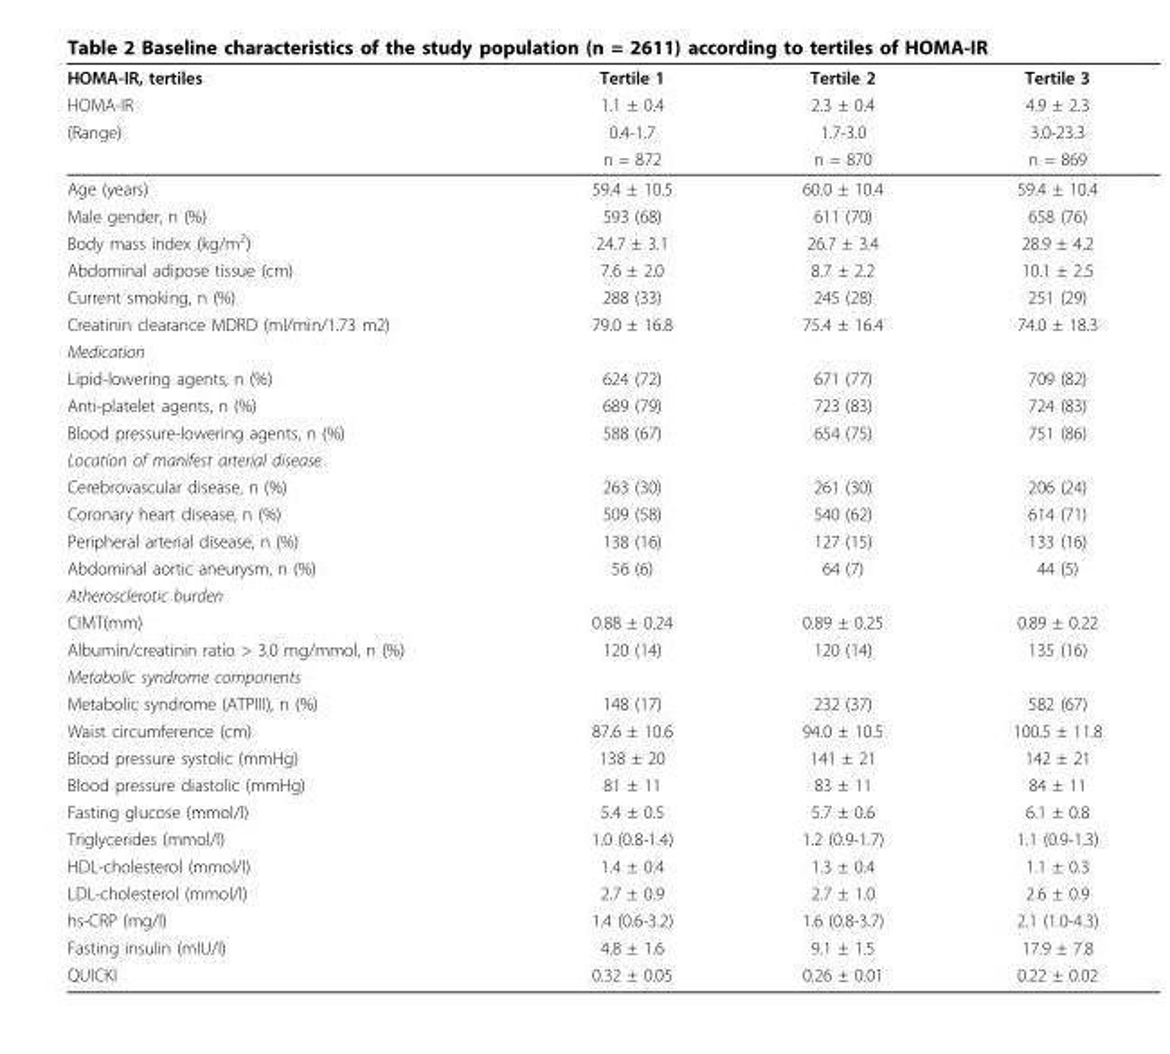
<table><thead><tr><td rowspan="4">HOMA-IR, tertiles HOMA-IR (Range)</td><td rowspan="4">Tertile 1 1.1 ± 0.4 0.4-1.7 n = 872</td><td rowspan="4">Tertile 2 2.3 ± 0.4 1.7-3.0 n = 870</td><td rowspan="4">Tertile 3 4.9 ± 2.3 3.0-23.3 n = 869</td></tr><tr></tr><tr></tr><tr></tr></thead><tbody><tr><td>Age (years)</td><td>59.4 ± 10.5</td><td>60.0 ± 10.4</td><td>59.4 ± 10.4</td></tr><tr><td>Male gender, n (%)</td><td>593 (68)</td><td>611 (70)</td><td>658 (76)</td></tr><tr><td>Body mass index (kg/m<sup>2</sup>)</td><td>24.7 ± 3.1</td><td>26.7 ± 3.4</td><td>28.9 ± 4.2</td></tr><tr><td>Abdominal adipose tissue (cm)</td><td>7.6 ± 2.0</td><td>8.7 ± 2.2</td><td>10.1 ± 2.5</td></tr><tr><td>Current smoking, n (%)</td><td>288 (33)</td><td>245 (28)</td><td>251 (29)</td></tr><tr><td>Creatinin clearance MDRD (ml/min/1.73 m2)</td><td>79.0 ± 16.8</td><td>75.4 ± 16.4</td><td>74.0 ± 18.3</td></tr><tr><td colspan="4">Medication</td></tr><tr><td>Lipid-lowering agents, n (%)</td><td>624 (72)</td><td>671 (77)</td><td>709 (82)</td></tr><tr><td>Anti-platelet agents, n (%)</td><td>689 (79)</td><td>723 (83)</td><td>724 (83)</td></tr><tr><td>Blood pressure-lowering agents, n (%)</td><td>588 (67)</td><td>654 (75)</td><td>751 (86)</td></tr><tr><td colspan="4">Location of manifest arterial disease</td></tr><tr><td>Cerebrovascular disease, n (%)</td><td>263 (30)</td><td>261 (30)</td><td>206 (24)</td></tr><tr><td>Coronary heart disease, n (%)</td><td>509 (58)</td><td>540 (62)</td><td>614 (71)</td></tr><tr><td>Peripheral arterial disease, n (%)</td><td>138 (16)</td><td>127 (15)</td><td>133 (16)</td></tr><tr><td>Abdominal aortic aneurysm, n (%)</td><td>56 (6)</td><td>64 (7)</td><td>44 (5)</td></tr><tr><td colspan="4">Atherosclerotic burden</td></tr><tr><td>CIMT(mm)</td><td>0.88 ± 0.24</td><td>0.89 ± 0.25</td><td>0.89 ± 0.22</td></tr><tr><td>Albumin/creatinin ratio &gt; 3.0 mg/mmol, n (%)</td><td>120 (14)</td><td>120 (14)</td><td>135 (16)</td></tr><tr><td colspan="4">Metabolic syndrome components</td></tr><tr><td>Metabolic syndrome (ATPIII), n (%)</td><td>148 (17)</td><td>232 (37)</td><td>582 (67)</td></tr><tr><td>Waist circumference (cm)</td><td>87.6 ± 10.6</td><td>94.0 ± 10.5</td><td>100.5 ± 11.8</td></tr><tr><td>Blood pressure systolic (mmHg)</td><td>138 ± 20</td><td>141 ± 21</td><td>142 ± 21</td></tr><tr><td>Blood pressure diastolic (mmHg)</td><td>81 ± 11</td><td>83 ± 11</td><td>84 ± 11</td></tr><tr><td>Fasting glucose (mmol/l)</td><td>5.4 ± 0.5</td><td>5.7 ± 0.6</td><td>6.1 ± 0.8</td></tr><tr><td>Triglycerides (mmol/l)</td><td>1.0 (0.8-1.4)</td><td>1.2 (0.9-1.7)</td><td>1.1 (0.9-1.3)</td></tr><tr><td>HDL-cholesterol (mmol/l)</td><td>1.4 ± 0.4</td><td>1.3 ± 0.4</td><td>1.1 ± 0.3</td></tr><tr><td>LDL-cholesterol (mmol/l)</td><td>2.7 ± 0.9</td><td>2.7 ± 1.0</td><td>2.6 ± 0.9</td></tr><tr><td>hs-CRP (mg/l)</td><td>1.4 (0.6-3.2)</td><td>1.6 (0.8-3.7)</td><td>2.1 (1.0-4.3)</td></tr><tr><td>Fasting insulin (mIU/l)</td><td>4.8 ± 1.6</td><td>9.1 ± 1.5</td><td>17.9 ± 7.8</td></tr><tr><td>QUICKI</td><td>0.32 ± 0.05</td><td>0.26 ± 0.01</td><td>0.22 ± 0.02</td></tr></tbody></table>